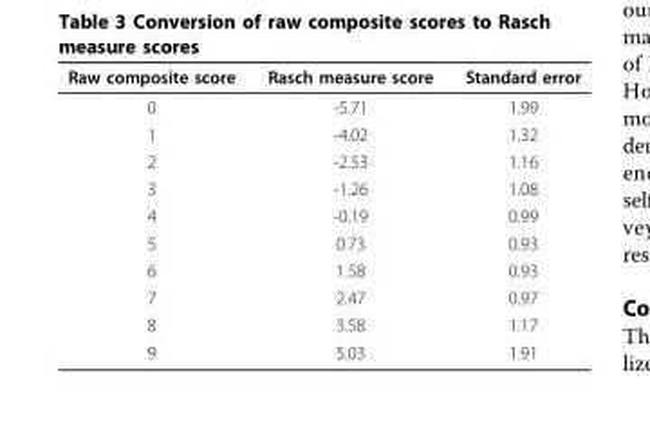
<table><thead><tr><td>Raw composite score</td><td>Rasch measure score</td><td>Standard error</td></tr></thead><tbody><tr><td>0</td><td>-5.71</td><td>1.99</td></tr><tr><td>1</td><td>-4.02</td><td>1.32</td></tr><tr><td>2</td><td>-2.53</td><td>1.16</td></tr><tr><td>3</td><td>-1.26</td><td>1.08</td></tr><tr><td>4</td><td>-0.19</td><td>0.99</td></tr><tr><td>5</td><td>0.73</td><td>0.93</td></tr><tr><td>6</td><td>1.58</td><td>0.93</td></tr><tr><td>7</td><td>2.47</td><td>0.97</td></tr><tr><td>8</td><td>3.58</td><td>1.17</td></tr><tr><td>9</td><td>5.03</td><td>1.91</td></tr></tbody></table>